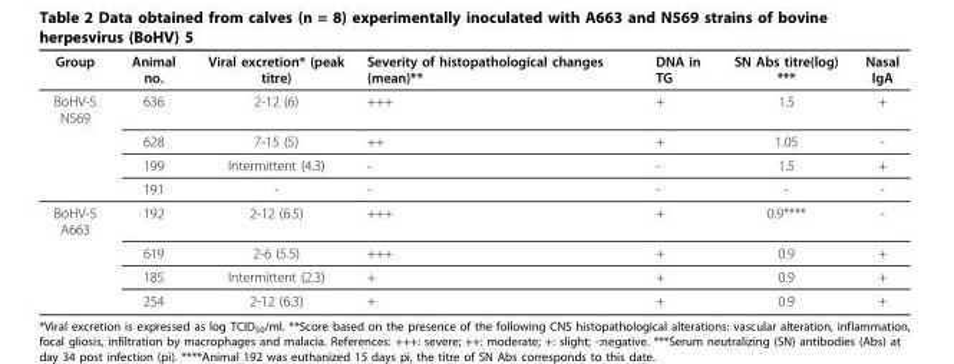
<table><thead><tr><td>Group</td><td>Animal no.</td><td>Viral excretion* (peak titre)</td><td>Severity of histopathological changes (mean)**</td><td>DNA in TG</td><td>SN Abs titre(log) ***</td><td>Nasal IgA</td></tr></thead><tbody><tr><td rowspan="4">BoHV-5 N569</td><td>636</td><td>2-12 (6)</td><td>+++</td><td>+</td><td>1.5</td><td>+</td></tr><tr><td>628</td><td>7-15 (5)</td><td>++</td><td>+</td><td>1.05</td><td>-</td></tr><tr><td>199</td><td>Intermittent (4.3)</td><td>-</td><td>-</td><td>1.5</td><td>+</td></tr><tr><td>191</td><td>-</td><td>-</td><td>-</td><td>-</td><td>-</td></tr><tr><td rowspan="4">BoHV-5 A663</td><td>192</td><td>2-12 (6.5)</td><td>+++</td><td>+</td><td>0.9****</td><td>-</td></tr><tr><td>619</td><td>2-6 (5.5)</td><td>+++</td><td>+</td><td>0.9</td><td>+</td></tr><tr><td>185</td><td>Intermittent (2.3)</td><td>+</td><td>+</td><td>0.9</td><td>+</td></tr><tr><td>254</td><td>2-12 (6.3)</td><td>+</td><td>+</td><td>0.9</td><td>+</td></tr></tbody></table>